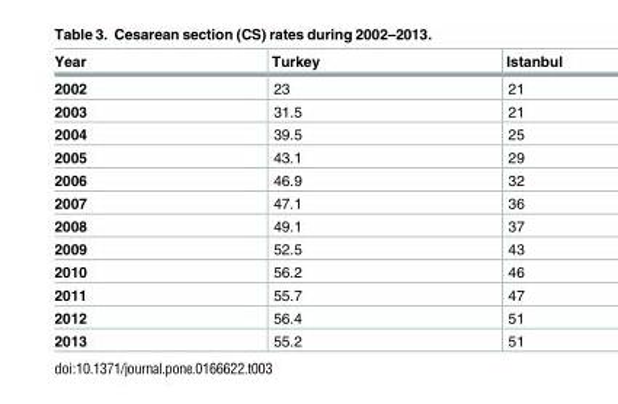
<table><thead><tr><td>Year</td><td>Turkey</td><td>Istanbul</td></tr></thead><tbody><tr><td>2002</td><td>23</td><td>21</td></tr><tr><td>2003</td><td>31.5</td><td>21</td></tr><tr><td>2004</td><td>39.5</td><td>25</td></tr><tr><td>2005</td><td>43.1</td><td>29</td></tr><tr><td>2006</td><td>46.9</td><td>32</td></tr><tr><td>2007</td><td>47.1</td><td>36</td></tr><tr><td>2008</td><td>49.1</td><td>37</td></tr><tr><td>2009</td><td>52.5</td><td>43</td></tr><tr><td>2010</td><td>56.2</td><td>46</td></tr><tr><td>2011</td><td>55.7</td><td>47</td></tr><tr><td>2012</td><td>56.4</td><td>51</td></tr><tr><td>2013</td><td>55.2</td><td>51</td></tr></tbody></table>